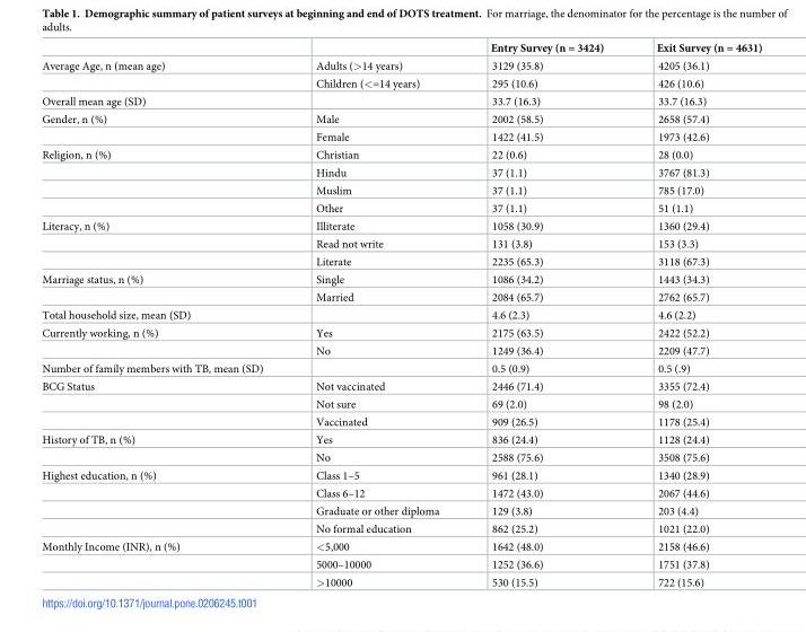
<table><thead><tr><td></td><td></td><td>Entry Survey (n = 3424)</td><td>Exit Survey (n = 4631)</td></tr></thead><tbody><tr><td rowspan="2">Average Age, n (mean age)</td><td>Adults (&gt;14 years)</td><td>3129 (35.8)</td><td>4205 (36.1)</td></tr><tr><td>Children (&lt;=14 years)</td><td>295 (10.6)</td><td>426 (10.6)</td></tr><tr><td>Overall mean age (SD)</td><td></td><td>33.7 (16.3)</td><td>33.7 (16.3)</td></tr><tr><td rowspan="2">Gender, n (%)</td><td>Male</td><td>2002 (58.5)</td><td>2658 (57.4)</td></tr><tr><td>Female</td><td>1422 (41.5)</td><td>1973 (42.6)</td></tr><tr><td rowspan="4">Religion, n (%)</td><td>Christian</td><td>22 (0.6)</td><td>28 (0.0)</td></tr><tr><td>Hindu</td><td>37 (1.1)</td><td>3767 (81.3)</td></tr><tr><td>Muslim</td><td>37 (1.1)</td><td>785 (17.0)</td></tr><tr><td>Other</td><td>37 (1.1)</td><td>51 (1.1)</td></tr><tr><td rowspan="3">Literacy, n (%)</td><td>Illiterate</td><td>1058 (30.9)</td><td>1360 (29.4)</td></tr><tr><td>Read not write</td><td>131 (3.8)</td><td>153 (3.3)</td></tr><tr><td>Literate</td><td>2235 (65.3)</td><td>3118 (67.3)</td></tr><tr><td rowspan="2">Marriage status, n (%)</td><td>Single</td><td>1086 (34.2)</td><td>1443 (34.3)</td></tr><tr><td>Married</td><td>2084 (65.7)</td><td>2762 (65.7)</td></tr><tr><td>Total household size, mean (SD)</td><td></td><td>4.6 (2.3)</td><td>4.6 (2.2)</td></tr><tr><td rowspan="2">Currently working, n (%)</td><td>Yes</td><td>2175 (63.5)</td><td>2422 (52.2)</td></tr><tr><td>No</td><td>1249 (36.4)</td><td>2209 (47.7)</td></tr><tr><td>Number of family members with TB, mean (SD)</td><td></td><td>0.5 (0.9)</td><td>0.5 (.9)</td></tr><tr><td rowspan="3">BCG Status</td><td>Not vaccinated</td><td>2446 (71.4)</td><td>3355 (72.4)</td></tr><tr><td>Not sure</td><td>69 (2.0)</td><td>98 (2.0)</td></tr><tr><td>Vaccinated</td><td>909 (26.5)</td><td>1178 (25.4)</td></tr><tr><td rowspan="2">History of TB, n (%)</td><td>Yes</td><td>836 (24.4)</td><td>1128 (24.4)</td></tr><tr><td>No</td><td>2588 (75.6)</td><td>3508 (75.6)</td></tr><tr><td rowspan="4">Highest education, n (%)</td><td>Class 1–5</td><td>961 (28.1)</td><td>1340 (28.9)</td></tr><tr><td>Class 6–12</td><td>1472 (43.0)</td><td>2067 (44.6)</td></tr><tr><td>Graduate or other diploma</td><td>129 (3.8)</td><td>203 (4.4)</td></tr><tr><td>No formal education</td><td>862 (25.2)</td><td>1021 (22.0)</td></tr><tr><td rowspan="3">Monthly Income (INR), n (%)</td><td>&lt;5,000</td><td>1642 (48.0)</td><td>2158 (46.6)</td></tr><tr><td>5000–10000</td><td>1252 (36.6)</td><td>1751 (37.8)</td></tr><tr><td>&gt;10000</td><td>530 (15.5)</td><td>722 (15.6)</td></tr></tbody></table>